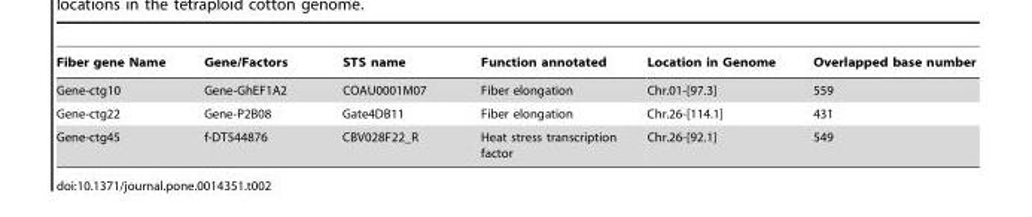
<table><thead><tr><td>Fiber gene Name</td><td>Gene/Factors</td><td>STS name</td><td>Function annotated</td><td>Location in Genome</td><td>Overlapped base number</td></tr></thead><tbody><tr><td>Gene-ctg10</td><td>Gene-GhEF1A2</td><td>COAU0001M07</td><td>Fiber elongation</td><td>Chr.01-[97.3]</td><td>559</td></tr><tr><td>Gene-ctg22</td><td>Gene-P2B08</td><td>Gate4DB11</td><td>Fiber elongation</td><td>Chr.26-[114.1]</td><td>431</td></tr><tr><td>Gene-ctg45</td><td>f-DT544876</td><td>CBV028F22_R</td><td>Heat stress transcription factor</td><td>Chr.26-[92.1]</td><td>549</td></tr></tbody></table>